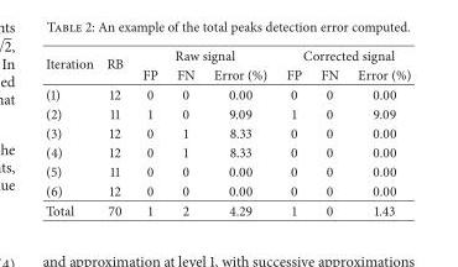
<table><thead><tr><td rowspan="2">Iteration</td><td rowspan="2">RB</td><td colspan="3">Raw signal</td><td colspan="3">Corrected signal</td></tr><tr><td>FP</td><td>FN</td><td>Error (%)</td><td>FP</td><td>FN</td><td>Error (%)</td></tr></thead><tbody><tr><td>(1)</td><td>12</td><td>0</td><td>0</td><td>0.00</td><td>0</td><td>0</td><td>0.00</td></tr><tr><td>(2)</td><td>11</td><td>1</td><td>0</td><td>9.09</td><td>1</td><td>0</td><td>9.09</td></tr><tr><td>(3)</td><td>12</td><td>0</td><td>1</td><td>8.33</td><td>0</td><td>0</td><td>0.00</td></tr><tr><td>(4)</td><td>12</td><td>0</td><td>1</td><td>8.33</td><td>0</td><td>0</td><td>0.00</td></tr><tr><td>(5)</td><td>11</td><td>0</td><td>0</td><td>0.00</td><td>0</td><td>0</td><td>0.00</td></tr><tr><td>(6)</td><td>12</td><td>0</td><td>0</td><td>0.00</td><td>0</td><td>0</td><td>0.00</td></tr><tr><td>Total</td><td>70</td><td>1</td><td>2</td><td>4.29</td><td>1</td><td>0</td><td>1.43</td></tr></tbody></table>